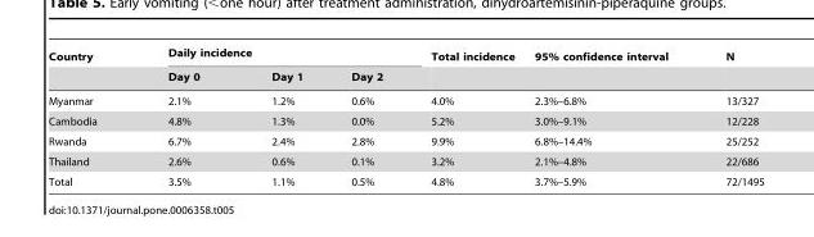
<table><thead><tr><td rowspan="2">Country</td><td colspan="3">Daily incidence</td><td rowspan="2">Total incidence</td><td rowspan="2">95% confidence interval</td><td rowspan="2">N</td></tr><tr><td>Day 0</td><td>Day 1</td><td>Day 2</td></tr></thead><tbody><tr><td>Myanmar</td><td>2.1%</td><td>1.2%</td><td>0.6%</td><td>4.0%</td><td>2.3%–6.8%</td><td>13/327</td></tr><tr><td>Cambodia</td><td>4.8%</td><td>1.3%</td><td>0.0%</td><td>5.2%</td><td>3.0%–9.1%</td><td>12/228</td></tr><tr><td>Rwanda</td><td>6.7%</td><td>2.4%</td><td>2.8%</td><td>9.9%</td><td>6.8%–14.4%</td><td>25/252</td></tr><tr><td>Thailand</td><td>2.6%</td><td>0.6%</td><td>0.1%</td><td>3.2%</td><td>2.1%–4.8%</td><td>22/686</td></tr><tr><td>Total</td><td>3.5%</td><td>1.1%</td><td>0.5%</td><td>4.8%</td><td>3.7%–5.9%</td><td>72/1495</td></tr></tbody></table>